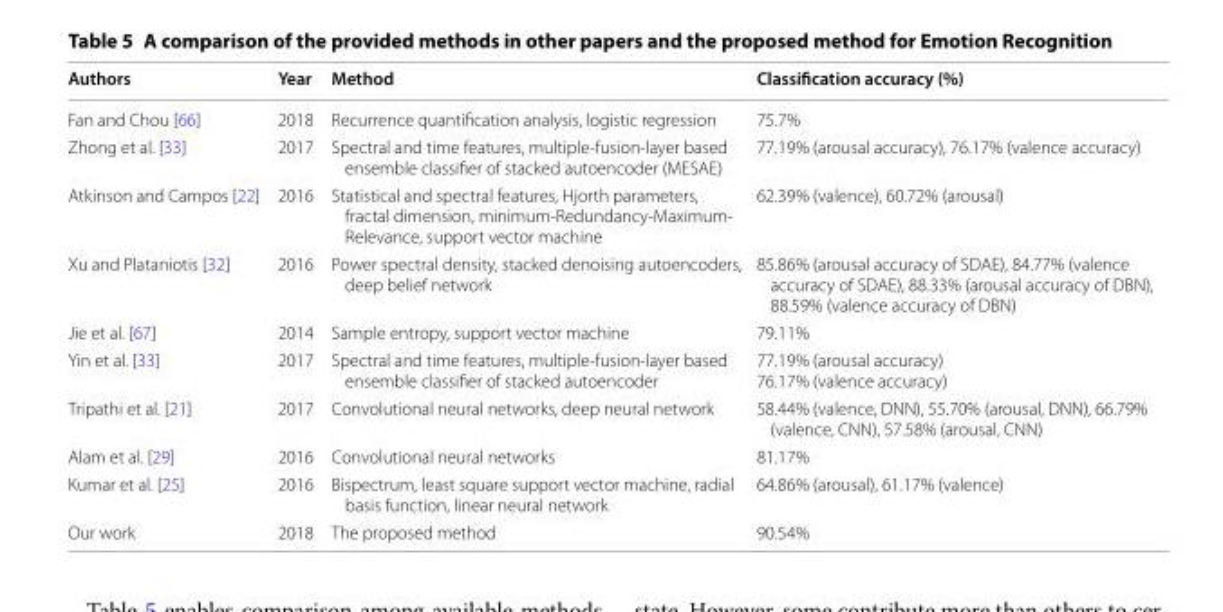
<table><thead><tr><td>Authors</td><td>Year</td><td>Method</td><td>Classification accuracy (%)</td></tr></thead><tbody><tr><td>Fan and Chou [66]</td><td>2018</td><td>Recurrence quantification analysis, logistic regression</td><td>75.7%</td></tr><tr><td>Zhong et al. [33]</td><td>2017</td><td>Spectral and time features, multiple-fusion-layer based ensemble classifier of stacked autoencoder (MESAE)</td><td>77.19% (arousal accuracy), 76.17% (valence accuracy)</td></tr><tr><td>Atkinson and Campos [22]</td><td>2016</td><td>Statistical and spectral features, Hjorth parameters, fractal dimension, minimum-Redundancy-Maximum- Relevance, support vector machine</td><td>62.39% (valence), 60.72% (arousal)</td></tr><tr><td>Xu and Plataniotis [32]</td><td>2016</td><td>Power spectral density, stacked denoising autoencoders, deep belief network</td><td>85.86% (arousal accuracy of SDAE), 84.77% (valence accuracy of SDAE), 88.33% (arousal accuracy of DBN), 88.59% (valence accuracy of DBN)</td></tr><tr><td>Jie et al. [67]</td><td>2014</td><td>Sample entropy, support vector machine</td><td>79.11%</td></tr><tr><td>Yin et al. [33]</td><td>2017</td><td>Spectral and time features, multiple-fusion-layer based ensemble classifier of stacked autoencoder</td><td>77.19% (arousal accuracy) 76.17% (valence accuracy)</td></tr><tr><td>Tripathi et al. [21]</td><td>2017</td><td>Convolutional neural networks, deep neural network</td><td>58.44% (valence, DNN), 55.70% (arousal, DNN), 66.79% (valence, CNN), 57.58% (arousal, CNN)</td></tr><tr><td>Alam et al. [29]</td><td>2016</td><td>Convolutional neural networks</td><td>81.17%</td></tr><tr><td>Kumar et al. [25]</td><td>2016</td><td>Bispectrum, least square support vector machine, radial basis function, linear neural network</td><td>64.86% (arousal), 61.17% (valence)</td></tr><tr><td>Our work</td><td>2018</td><td>The proposed method</td><td>90.54%</td></tr></tbody></table>